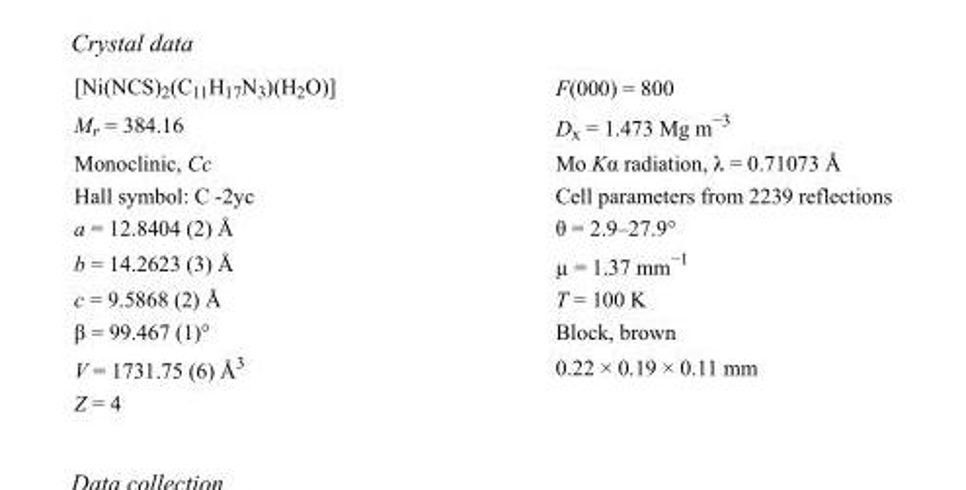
<table><tbody><tr><td>[Ni(NCS)<sub>2</sub>(C<sub>11</sub>H<sub>17</sub>N<sub>3</sub>)(H<sub>2</sub>O)]</td><td>F(000) = 800</td></tr><tr><td>M<sub>r</sub> = 384.16</td><td>D<sub>x</sub> = 1.473 Mg m<sup>−3</sup></td></tr><tr><td>Monoclinic, Cc</td><td>Mo Kα radiation, λ = 0.71073 Å</td></tr><tr><td>Hall symbol: C -2yc</td><td>Cell parameters from 2239 reflections</td></tr><tr><td>a = 12.8404 (2) Å</td><td>θ = 2.9–27.9°</td></tr><tr><td>b = 14.2623 (3) Å</td><td>µ = 1.37 mm<sup>−1</sup></td></tr><tr><td>c = 9.5868 (2) Å</td><td>T = 100 K</td></tr><tr><td>β = 99.467 (1)°</td><td>Block, brown</td></tr><tr><td>V = 1731.75 (6) Å<sup>3</sup></td><td>0.22 × 0.19 × 0.11 mm</td></tr><tr><td>Z = 4</td><td></td></tr></tbody></table>